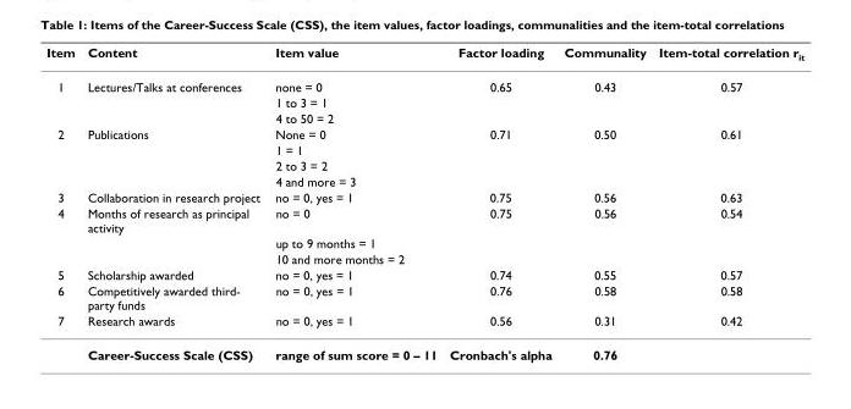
<table><thead><tr><td>Item</td><td>Content</td><td>Item value</td><td>Factor loading</td><td>Communality</td><td>Item-total correlation r<sub>it</sub></td></tr></thead><tbody><tr><td rowspan="3">1</td><td>Lectures/Talks at conferences</td><td>none = 0</td><td>0.65</td><td>0.43</td><td>0.57</td></tr><tr><td></td><td>1 to 3 = 1</td><td></td><td></td><td></td></tr><tr><td></td><td>4 to 50 = 2</td><td></td><td></td><td></td></tr><tr><td rowspan="4">2</td><td>Publications</td><td>None = 0</td><td>0.71</td><td>0.50</td><td>0.61</td></tr><tr><td></td><td>1 = 1</td><td></td><td></td><td></td></tr><tr><td></td><td>2 to 3 = 2</td><td></td><td></td><td></td></tr><tr><td></td><td>4 and more = 3</td><td></td><td></td><td></td></tr><tr><td>3</td><td>Collaboration in research project</td><td>no = 0, yes = 1</td><td>0.75</td><td>0.56</td><td>0.63</td></tr><tr><td rowspan="3">4</td><td>Months of research as principal activity</td><td>no = 0</td><td>0.75</td><td>0.56</td><td>0.54</td></tr><tr><td></td><td>up to 9 months = 1</td><td></td><td></td><td></td></tr><tr><td></td><td>10 and more months = 2</td><td></td><td></td><td></td></tr><tr><td>5</td><td>Scholarship awarded</td><td>no = 0, yes = 1</td><td>0.74</td><td>0.55</td><td>0.57</td></tr><tr><td>6</td><td>Competitively awarded third- party funds</td><td>no = 0, yes = 1</td><td>0.76</td><td>0.58</td><td>0.58</td></tr><tr><td rowspan="2">7</td><td>Research awards</td><td>no = 0, yes = 1</td><td>0.56</td><td>0.31</td><td>0.42</td></tr><tr><td>Career-Success Scale (CSS)</td><td>range of sum score = 0 – 11</td><td>Cronbach&#x27;s alpha</td><td>0.76</td><td></td></tr></tbody></table>